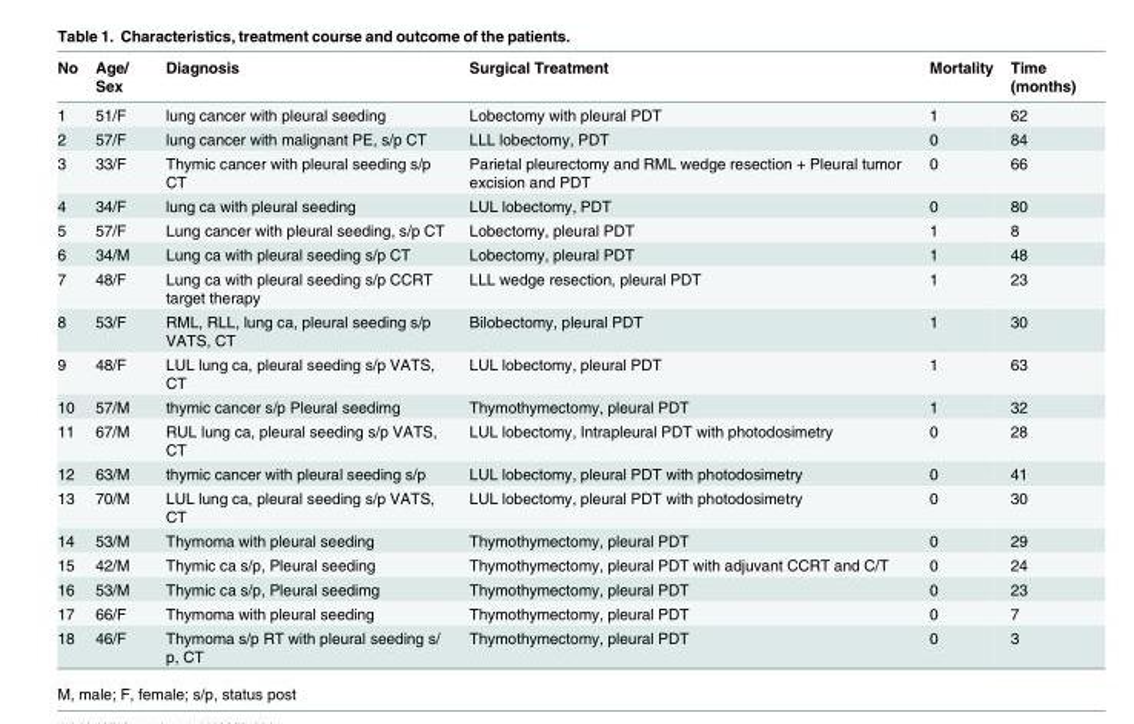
<table><thead><tr><td>No</td><td>Age/ Sex</td><td>Diagnosis</td><td>Surgical Treatment</td><td>Mortality</td><td>Time (months)</td></tr></thead><tbody><tr><td>1</td><td>51/F</td><td>lung cancer with pleural seeding</td><td>Lobectomy with pleural PDT</td><td>1</td><td>62</td></tr><tr><td>2</td><td>57/F</td><td>lung cancer with malignant PE, s/p CT</td><td>LLL lobectomy, PDT</td><td>0</td><td>84</td></tr><tr><td>3</td><td>33/F</td><td>Thymic cancer with pleural seeding s/p CT</td><td>Parietal pleurectomy and RML wedge resection + Pleural tumor excision and PDT</td><td>0</td><td>66</td></tr><tr><td>4</td><td>34/F</td><td>lung ca with pleural seeding</td><td>LUL lobectomy, PDT</td><td>0</td><td>80</td></tr><tr><td>5</td><td>57/F</td><td>Lung cancer with pleural seeding, s/p CT</td><td>Lobectomy, pleural PDT</td><td>1</td><td>8</td></tr><tr><td>6</td><td>34/M</td><td>Lung ca with pleural seeding s/p CT</td><td>Lobectomy, pleural PDT</td><td>1</td><td>48</td></tr><tr><td>7</td><td>48/F</td><td>Lung ca with pleural seeding s/p CCRT target therapy</td><td>LLL wedge resection, pleural PDT</td><td>1</td><td>23</td></tr><tr><td>8</td><td>53/F</td><td>RML, RLL, lung ca, pleural seeding s/p VATS, CT</td><td>Bilobectomy, pleural PDT</td><td>1</td><td>30</td></tr><tr><td>9</td><td>48/F</td><td>LUL lung ca, pleural seeding s/p VATS, CT</td><td>LUL lobectomy, pleural PDT</td><td>1</td><td>63</td></tr><tr><td>10</td><td>57/M</td><td>thymic cancer s/p Pleural seedimg</td><td>Thymothymectomy, pleural PDT</td><td>1</td><td>32</td></tr><tr><td>11</td><td>67/M</td><td>RUL lung ca, pleural seeding s/p VATS, CT</td><td>LUL lobectomy, Intrapleural PDT with photodosimetry</td><td>0</td><td>28</td></tr><tr><td>12</td><td>63/M</td><td>thymic cancer with pleural seeding s/p</td><td>LUL lobectomy, pleural PDT with photodosimetry</td><td>0</td><td>41</td></tr><tr><td>13</td><td>70/M</td><td>LUL lung ca, pleural seeding s/p VATS, CT</td><td>LUL lobectomy, pleural PDT with photodosimetry</td><td>0</td><td>30</td></tr><tr><td>14</td><td>53/M</td><td>Thymoma with pleural seeding</td><td>Thymothymectomy, pleural PDT</td><td>0</td><td>29</td></tr><tr><td>15</td><td>42/M</td><td>Thymic ca s/p, Pleural seeding</td><td>Thymothymectomy, pleural PDT with adjuvant CCRT and C/T</td><td>0</td><td>24</td></tr><tr><td>16</td><td>53/M</td><td>Thymic ca s/p, Pleural seedimg</td><td>Thymothymectomy, pleural PDT</td><td>0</td><td>23</td></tr><tr><td>17</td><td>66/F</td><td>Thymoma with pleural seeding</td><td>Thymothymectomy, pleural PDT</td><td>0</td><td>7</td></tr><tr><td>18</td><td>46/F</td><td>Thymoma s/p RT with pleural seeding s/ p, CT</td><td>Thymothymectomy, pleural PDT</td><td>0</td><td>3</td></tr></tbody></table>